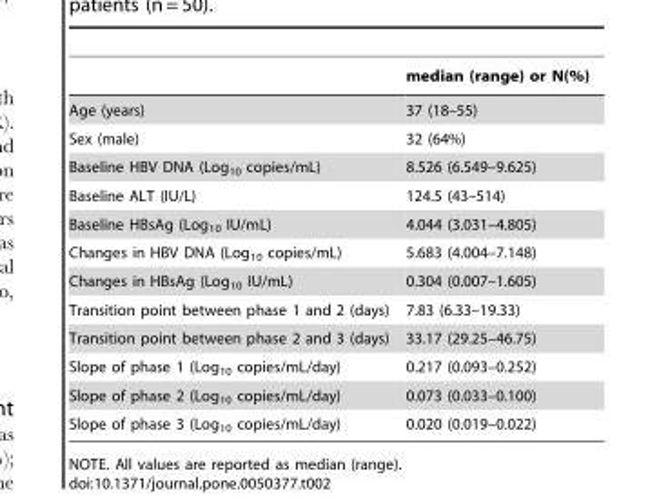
<table><thead><tr><td></td><td>median (range) or N(%)</td></tr></thead><tbody><tr><td>Age (years)</td><td>37 (18–55)</td></tr><tr><td>Sex (male)</td><td>32 (64%)</td></tr><tr><td>Baseline HBV DNA (Log<sub>10</sub> copies/mL)</td><td>8.526 (6.549–9.625)</td></tr><tr><td>Baseline ALT (IU/L)</td><td>124.5 (43–514)</td></tr><tr><td>Baseline HBsAg (Log<sub>10</sub> IU/mL)</td><td>4.044 (3.031–4.805)</td></tr><tr><td>Changes in HBV DNA (Log<sub>10</sub> copies/mL)</td><td>5.683 (4.004–7.148)</td></tr><tr><td>Changes in HBsAg (Log<sub>10</sub> IU/mL)</td><td>0.304 (0.007–1.605)</td></tr><tr><td>Transition point between phase 1 and 2 (days)</td><td>7.83 (6.33–19.33)</td></tr><tr><td>Transition point between phase 2 and 3 (days)</td><td>33.17 (29.25–46.75)</td></tr><tr><td>Slope of phase 1 (Log<sub>10</sub> copies/mL/day)</td><td>0.217 (0.093–0.252)</td></tr><tr><td>Slope of phase 2 (Log<sub>10</sub> copies/mL/day)</td><td>0.073 (0.033–0.100)</td></tr><tr><td>Slope of phase 3 (Log<sub>10</sub> copies/mL/day)</td><td>0.020 (0.019–0.022)</td></tr></tbody></table>